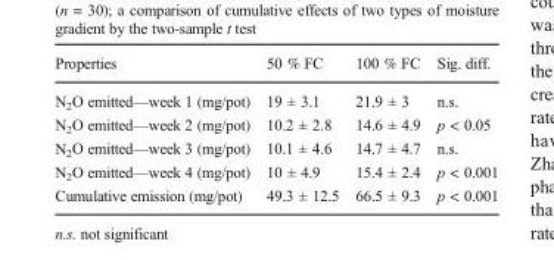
<table><thead><tr><td>Properties</td><td>50 % FC</td><td>100 % FC</td><td>Sig. diff.</td></tr></thead><tbody><tr><td>N<sub>2</sub>O emitted—week 1 (mg/pot)</td><td>19 ± 3.1</td><td>21.9 ± 3</td><td>n.s.</td></tr><tr><td>N<sub>2</sub>O emitted—week 2 (mg/pot)</td><td>10.2 ± 2.8</td><td>14.6 ± 4.9</td><td>p &lt; 0.05</td></tr><tr><td>N<sub>2</sub>O emitted—week 3 (mg/pot)</td><td>10.1 ± 4.6</td><td>14.7 ± 4.7</td><td>n.s.</td></tr><tr><td>N<sub>2</sub>O emitted—week 4 (mg/pot)</td><td>10 ± 4.9</td><td>15.4 ± 2.4</td><td>p &lt; 0.001</td></tr><tr><td>Cumulative emission (mg/pot)</td><td>49.3 ± 12.5</td><td>66.5 ± 9.3</td><td>p &lt; 0.001</td></tr></tbody></table>